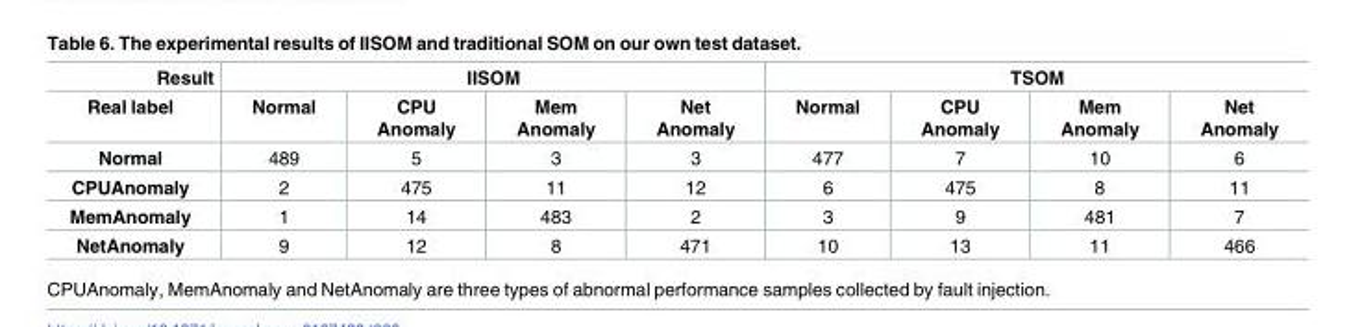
<table><thead><tr><td rowspan="2">Result Real label</td><td colspan="4">IISOM</td><td colspan="4">TSOM</td></tr><tr><td>Normal</td><td>CPU Anomaly</td><td>Mem Anomaly</td><td>Net Anomaly</td><td>Normal</td><td>CPU Anomaly</td><td>Mem Anomaly</td><td>Net Anomaly</td></tr></thead><tbody><tr><td>Normal</td><td>489</td><td>5</td><td>3</td><td>3</td><td>477</td><td>7</td><td>10</td><td>6</td></tr><tr><td>CPUAnomaly</td><td>2</td><td>475</td><td>11</td><td>12</td><td>6</td><td>475</td><td>8</td><td>11</td></tr><tr><td>MemAnomaly</td><td>1</td><td>14</td><td>483</td><td>2</td><td>3</td><td>9</td><td>481</td><td>7</td></tr><tr><td>NetAnomaly</td><td>9</td><td>12</td><td>8</td><td>471</td><td>10</td><td>13</td><td>11</td><td>466</td></tr></tbody></table>